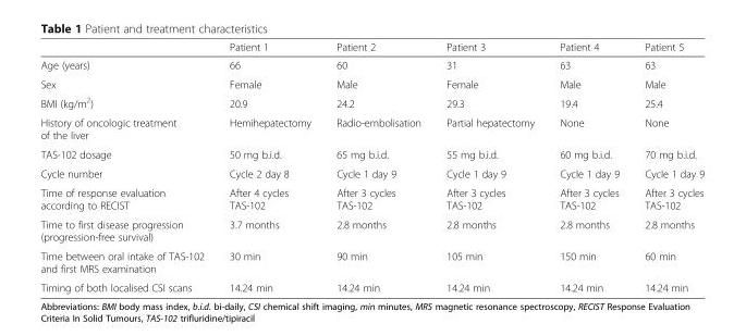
<table><thead><tr><td></td><td>Patient 1</td><td>Patient 2</td><td>Patient 3</td><td>Patient 4</td><td>Patient 5</td></tr></thead><tbody><tr><td>Age (years)</td><td>66</td><td>60</td><td>31</td><td>63</td><td>63</td></tr><tr><td>Sex</td><td>Female</td><td>Male</td><td>Female</td><td>Male</td><td>Male</td></tr><tr><td>BMI (kg/m<sup>2</sup>)</td><td>20.9</td><td>24.2</td><td>29.3</td><td>19.4</td><td>25.4</td></tr><tr><td>History of oncologic treatment of the liver</td><td>Hemihepatectomy</td><td>Radio-embolisation</td><td>Partial hepatectomy</td><td>None</td><td>None</td></tr><tr><td>TAS-102 dosage</td><td>50 mg b.i.d.</td><td>65 mg b.i.d.</td><td>55 mg b.i.d.</td><td>60 mg b.i.d.</td><td>70 mg b.i.d.</td></tr><tr><td>Cycle number</td><td>Cycle 2 day 8</td><td>Cycle 1 day 9</td><td>Cycle 1 day 9</td><td>Cycle 1 day 9</td><td>Cycle 1 day 9</td></tr><tr><td>Time of response evaluation according to RECIST</td><td>After 4 cycles TAS-102</td><td>After 3 cycles TAS-102</td><td>After 3 cycles TAS-102</td><td>After 3 cycles TAS-102</td><td>After 3 cycles TAS-102</td></tr><tr><td>Time to first disease progression (progression-free survival)</td><td>3.7 months</td><td>2.8 months</td><td>2.8 months</td><td>2.8 months</td><td>2.8 months</td></tr><tr><td>Time between oral intake of TAS-102 and first MRS examination</td><td>30 min</td><td>90 min</td><td>105 min</td><td>150 min</td><td>60 min</td></tr><tr><td>Timing of both localised CSI scans</td><td>14.24 min</td><td>14.24 min</td><td>14.24 min</td><td>14.24 min</td><td>14.24 min</td></tr></tbody></table>